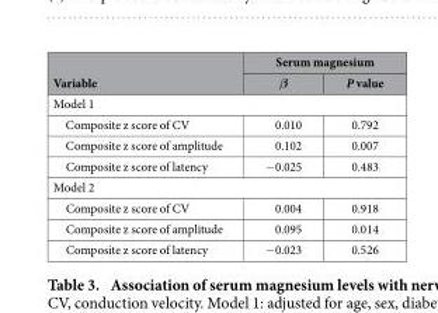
<table><thead><tr><td rowspan="2">Variable</td><td colspan="2">Serum magnesium</td></tr><tr><td>β</td><td>P value</td></tr></thead><tbody><tr><td colspan="3">Model 1</td></tr><tr><td>Composite z score of CV</td><td>0.010</td><td>0.792</td></tr><tr><td>Composite z score of amplitude</td><td>0.102</td><td>0.007</td></tr><tr><td>Composite z score of latency</td><td>− 0.025</td><td>0.483</td></tr><tr><td colspan="3">Model 2</td></tr><tr><td>Composite z score of CV</td><td>0.004</td><td>0.918</td></tr><tr><td>Composite z score of amplitude</td><td>0.095</td><td>0.014</td></tr><tr><td>Composite z score of latency</td><td>− 0.023</td><td>0.526</td></tr></tbody></table>